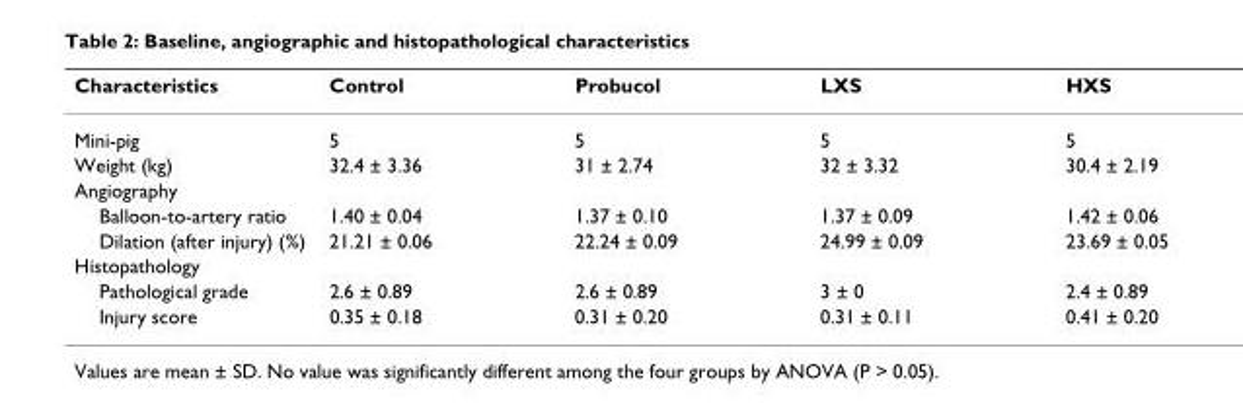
<table><thead><tr><td>Characteristics</td><td>Control</td><td>Probucol</td><td>LXS</td><td>HXS</td></tr></thead><tbody><tr><td>Mini-pig</td><td>5</td><td>5</td><td>5</td><td>5</td></tr><tr><td>Weight (kg)</td><td>32.4 ± 3.36</td><td>31 ± 2.74</td><td>32 ± 3.32</td><td>30.4 ± 2.19</td></tr><tr><td colspan="5">Angiography</td></tr><tr><td>Balloon-to-artery ratio</td><td>1.40 ± 0.04</td><td>1.37 ± 0.10</td><td>1.37 ± 0.09</td><td>1.42 ± 0.06</td></tr><tr><td>Dilation (after injury) (%)</td><td>21.21 ± 0.06</td><td>22.24 ± 0.09</td><td>24.99 ± 0.09</td><td>23.69 ± 0.05</td></tr><tr><td colspan="5">Histopathology</td></tr><tr><td>Pathological grade</td><td>2.6 ± 0.89</td><td>2.6 ± 0.89</td><td>3 ± 0</td><td>2.4 ± 0.89</td></tr><tr><td>Injury score</td><td>0.35 ± 0.18</td><td>0.31 ± 0.20</td><td>0.31 ± 0.11</td><td>0.41 ± 0.20</td></tr></tbody></table>